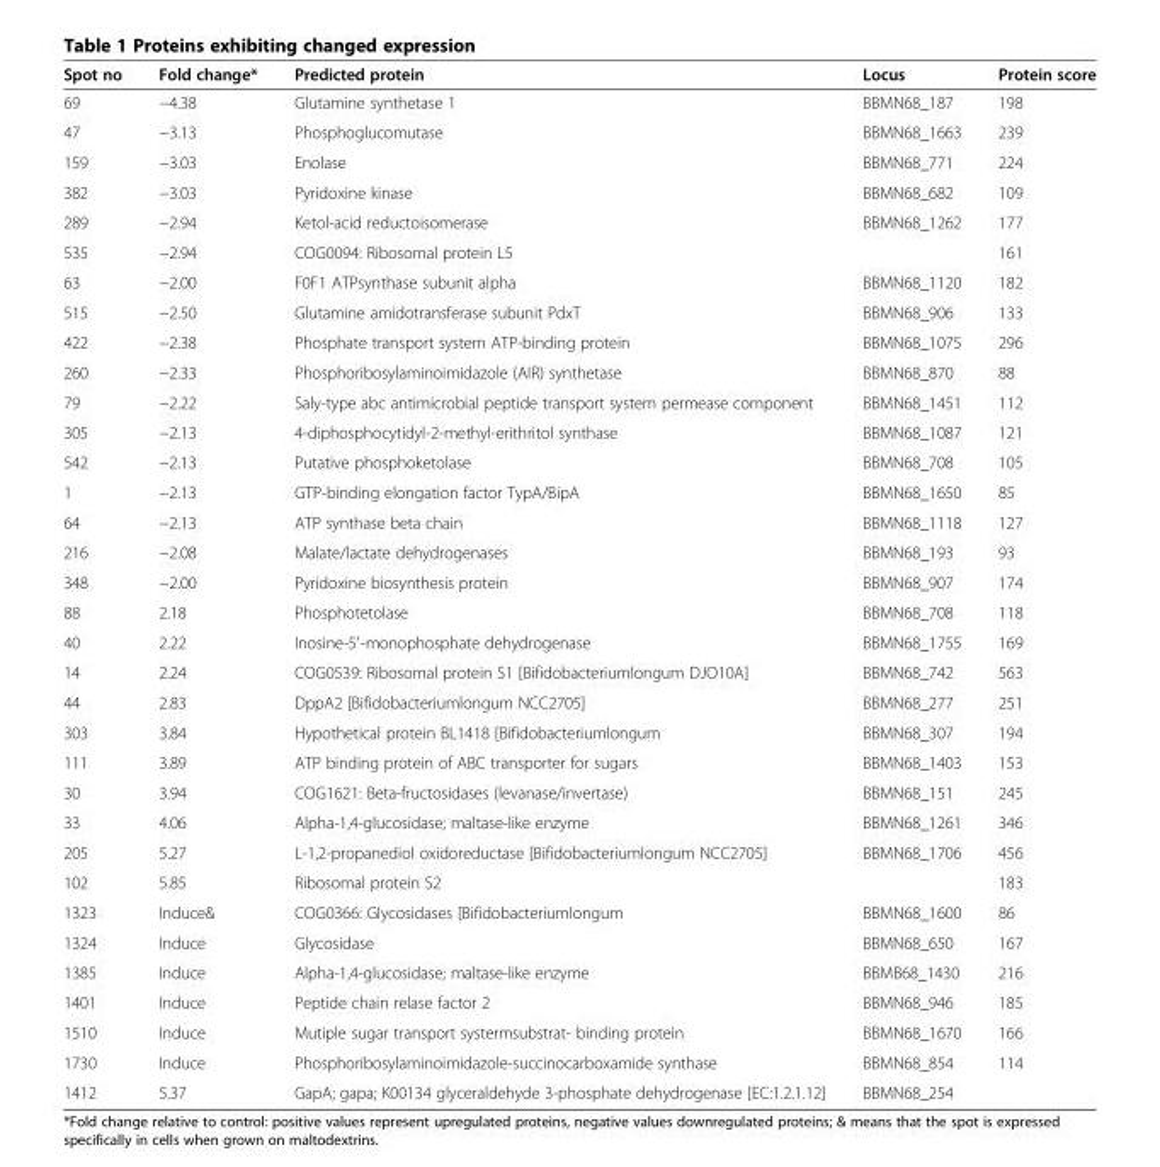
<table><thead><tr><td>Spot no</td><td>Fold change*</td><td>Predicted protein</td><td>Locus</td><td>Protein score</td></tr></thead><tbody><tr><td>69</td><td>−4.38</td><td>Glutamine synthetase 1</td><td>BBMN68_187</td><td>198</td></tr><tr><td>47</td><td>−3.13</td><td>Phosphoglucomutase</td><td>BBMN68_1663</td><td>239</td></tr><tr><td>159</td><td>−3.03</td><td>Enolase</td><td>BBMN68_771</td><td>224</td></tr><tr><td>382</td><td>−3.03</td><td>Pyridoxine kinase</td><td>BBMN68_682</td><td>109</td></tr><tr><td>289</td><td>−2.94</td><td>Ketol-acid reductoisomerase</td><td>BBMN68_1262</td><td>177</td></tr><tr><td>535</td><td>−2.94</td><td>COG0094: Ribosomal protein L5</td><td></td><td>161</td></tr><tr><td>63</td><td>−2.00</td><td>F0F1 ATPsynthase subunit alpha</td><td>BBMN68_1120</td><td>182</td></tr><tr><td>515</td><td>−2.50</td><td>Glutamine amidotransferase subunit PdxT</td><td>BBMN68_906</td><td>133</td></tr><tr><td>422</td><td>−2.38</td><td>Phosphate transport system ATP-binding protein</td><td>BBMN68_1075</td><td>296</td></tr><tr><td>260</td><td>−2.33</td><td>Phosphoribosylaminoimidazole (AIR) synthetase</td><td>BBMN68_870</td><td>88</td></tr><tr><td>79</td><td>−2.22</td><td>Saly-type abc antimicrobial peptide transport system permease component</td><td>BBMN68_1451</td><td>112</td></tr><tr><td>305</td><td>−2.13</td><td>4-diphosphocytidyl-2-methyl-erithritol synthase</td><td>BBMN68_1087</td><td>121</td></tr><tr><td>542</td><td>−2.13</td><td>Putative phosphoketolase</td><td>BBMN68_708</td><td>105</td></tr><tr><td>1</td><td>−2.13</td><td>GTP-binding elongation factor TypA/BipA</td><td>BBMN68_1650</td><td>85</td></tr><tr><td>64</td><td>−2.13</td><td>ATP synthase beta chain</td><td>BBMN68_1118</td><td>127</td></tr><tr><td>216</td><td>−2.08</td><td>Malate/lactate dehydrogenases</td><td>BBMN68_193</td><td>93</td></tr><tr><td>348</td><td>−2.00</td><td>Pyridoxine biosynthesis protein</td><td>BBMN68_907</td><td>174</td></tr><tr><td>88</td><td>2.18</td><td>Phosphotetolase</td><td>BBMN68_708</td><td>118</td></tr><tr><td>40</td><td>2.22</td><td>Inosine-5′-monophosphate dehydrogenase</td><td>BBMN68_1755</td><td>169</td></tr><tr><td>14</td><td>2.24</td><td>COG0539: Ribosomal protein S1 [Bifidobacteriumlongum DJO10A]</td><td>BBMN68_742</td><td>563</td></tr><tr><td>44</td><td>2.83</td><td>DppA2 [Bifidobacteriumlongum NCC2705]</td><td>BBMN68_277</td><td>251</td></tr><tr><td>303</td><td>3.84</td><td>Hypothetical protein BL1418 [Bifidobacteriumlongum</td><td>BBMN68_307</td><td>194</td></tr><tr><td>111</td><td>3.89</td><td>ATP binding protein of ABC transporter for sugars</td><td>BBMN68_1403</td><td>153</td></tr><tr><td>30</td><td>3.94</td><td>COG1621: Beta-fructosidases (levanase/invertase)</td><td>BBMN68_151</td><td>245</td></tr><tr><td>33</td><td>4.06</td><td>Alpha-1,4-glucosidase; maltase-like enzyme</td><td>BBMN68_1261</td><td>346</td></tr><tr><td>205</td><td>5.27</td><td>L-1,2-propanediol oxidoreductase [Bifidobacteriumlongum NCC2705]</td><td>BBMN68_1706</td><td>456</td></tr><tr><td>102</td><td>5.85</td><td>Ribosomal protein S2</td><td></td><td>183</td></tr><tr><td>1323</td><td>Induce&amp;</td><td>COG0366: Glycosidases [Bifidobacteriumlongum</td><td>BBMN68_1600</td><td>86</td></tr><tr><td>1324</td><td>Induce</td><td>Glycosidase</td><td>BBMN68_650</td><td>167</td></tr><tr><td>1385</td><td>Induce</td><td>Alpha-1,4-glucosidase; maltase-like enzyme</td><td>BBMB68_1430</td><td>216</td></tr><tr><td>1401</td><td>Induce</td><td>Peptide chain relase factor 2</td><td>BBMN68_946</td><td>185</td></tr><tr><td>1510</td><td>Induce</td><td>Mutiple sugar transport systermsubstrat- binding protein</td><td>BBMN68_1670</td><td>166</td></tr><tr><td>1730</td><td>Induce</td><td>Phosphoribosylaminoimidazole-succinocarboxamide synthase</td><td>BBMN68_854</td><td>114</td></tr><tr><td>1412</td><td>5.37</td><td>GapA; gapa; K00134 glyceraldehyde 3-phosphate dehydrogenase [EC:1.2.1.12]</td><td>BBMN68_254</td><td></td></tr></tbody></table>